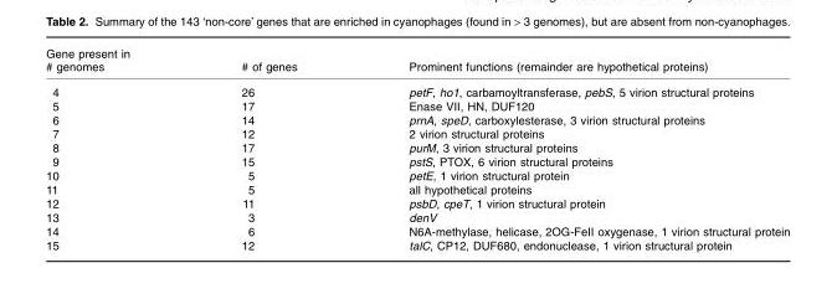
<table><thead><tr><td>Gene present in # genomes</td><td># of genes</td><td>Prominent functions (remainder are hypothetical proteins)</td></tr></thead><tbody><tr><td>4</td><td>26</td><td>petF, ho1, carbamoyltransferase, pebS, 5 virion structural proteins</td></tr><tr><td>5</td><td>17</td><td>Enase VII, HN, DUF120</td></tr><tr><td>6</td><td>14</td><td>prnA, speD, carboxylesterase, 3 virion structural proteins</td></tr><tr><td>7</td><td>12</td><td>2 virion structural proteins</td></tr><tr><td>8</td><td>17</td><td>purM, 3 virion structural proteins</td></tr><tr><td>9</td><td>15</td><td>pstS, PTOX, 6 virion structural proteins</td></tr><tr><td>10</td><td>5</td><td>petE, 1 virion structural protein</td></tr><tr><td>11</td><td>5</td><td>all hypothetical proteins</td></tr><tr><td>12</td><td>11</td><td>psbD, cpeT, 1 virion structural protein</td></tr><tr><td>13</td><td>3</td><td>denV</td></tr><tr><td>14</td><td>6</td><td>N6A-methylase, helicase, 2OG-FeII oxygenase, 1 virion structural protein</td></tr><tr><td>15</td><td>12</td><td>talC, CP12, DUF680, endonuclease, 1 virion structural protein</td></tr></tbody></table>